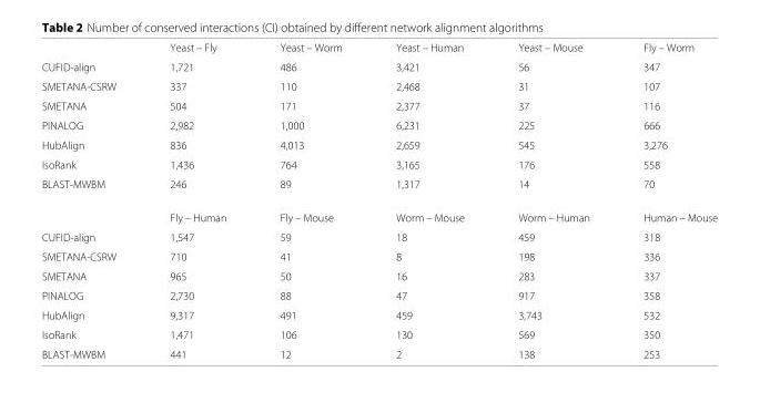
<table><thead><tr><td></td><td>Yeast – Fly</td><td>Yeast – Worm</td><td>Yeast – Human</td><td>Yeast – Mouse</td><td>Fly – Worm</td></tr></thead><tbody><tr><td>CUFID-align</td><td>1,721</td><td>486</td><td>3,421</td><td>56</td><td>347</td></tr><tr><td>SMETANA-CSRW</td><td>337</td><td>110</td><td>2,468</td><td>31</td><td>107</td></tr><tr><td>SMETANA</td><td>504</td><td>171</td><td>2,377</td><td>37</td><td>116</td></tr><tr><td>PINALOG</td><td>2,982</td><td>1,000</td><td>6,231</td><td>225</td><td>666</td></tr><tr><td>HubAlign</td><td>836</td><td>4,013</td><td>2,659</td><td>545</td><td>3,276</td></tr><tr><td>IsoRank</td><td>1,436</td><td>764</td><td>3,165</td><td>176</td><td>558</td></tr><tr><td rowspan="2">BLAST-MWBM</td><td>246</td><td>89</td><td>1,317</td><td>14</td><td>70</td></tr><tr><td>Fly – Human</td><td>Fly – Mouse</td><td>Worm – Mouse</td><td>Worm – Human</td><td>Human – Mouse</td></tr><tr><td>CUFID-align</td><td>1,547</td><td>59</td><td>18</td><td>459</td><td>318</td></tr><tr><td>SMETANA-CSRW</td><td>710</td><td>41</td><td>8</td><td>198</td><td>336</td></tr><tr><td>SMETANA</td><td>965</td><td>50</td><td>16</td><td>283</td><td>337</td></tr><tr><td>PINALOG</td><td>2,730</td><td>88</td><td>47</td><td>917</td><td>358</td></tr><tr><td>HubAlign</td><td>9,317</td><td>491</td><td>459</td><td>3,743</td><td>532</td></tr><tr><td>IsoRank</td><td>1,471</td><td>106</td><td>130</td><td>569</td><td>350</td></tr><tr><td>BLAST-MWBM</td><td>441</td><td>12</td><td>2</td><td>138</td><td>253</td></tr></tbody></table>